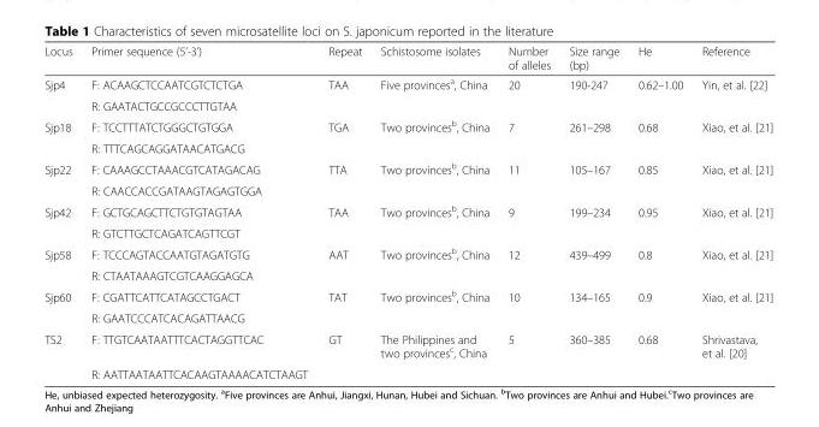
<table><thead><tr><td>Locus</td><td>Primer sequence (5’-3’)</td><td>Repeat</td><td>Schistosome isolates</td><td>Number of alleles</td><td>Size range (bp)</td><td>He</td><td>Reference</td></tr></thead><tbody><tr><td rowspan="2">Sjp4</td><td>F: ACAAGCTCCAATCGTCTCTGA</td><td>TAA</td><td>Five provinces<sup>a</sup>, China</td><td>20</td><td>190-247</td><td>0.62–1.00</td><td>Yin, et al. [22]</td></tr><tr><td>R: GAATACTGCCGCCCTTGTAA</td><td></td><td></td><td></td><td></td><td></td><td></td></tr><tr><td rowspan="2">Sjp18</td><td>F: TCCTTTATCTGGGCTGTGGA</td><td>TGA</td><td>Two provinces<sup>b</sup>, China</td><td>7</td><td>261–298</td><td>0.68</td><td>Xiao, et al. [21]</td></tr><tr><td>R: TTTCAGCAGGATAACATGACG</td><td></td><td></td><td></td><td></td><td></td><td></td></tr><tr><td rowspan="2">Sjp22</td><td>F: CAAAGCCTAAACGTCATAGACAG</td><td>TTA</td><td>Two provinces<sup>b</sup>, China</td><td>11</td><td>105–167</td><td>0.85</td><td>Xiao, et al. [21]</td></tr><tr><td>R: CAACCACCGATAAGTAGAGTGGA</td><td></td><td></td><td></td><td></td><td></td><td></td></tr><tr><td rowspan="2">Sjp42</td><td>F: GCTGCAGCTTCTGTGTAGTAA</td><td>TAA</td><td>Two provinces<sup>b</sup>, China</td><td>9</td><td>199–234</td><td>0.95</td><td>Xiao, et al. [21]</td></tr><tr><td>R: GTCTTGCTCAGATCAGTTCGT</td><td></td><td></td><td></td><td></td><td></td><td></td></tr><tr><td rowspan="2">Sjp58</td><td>F: TCCCAGTACCAATGTAGATGTG</td><td>AAT</td><td>Two provinces<sup>b</sup>, China</td><td>12</td><td>439–499</td><td>0.8</td><td>Xiao, et al. [21]</td></tr><tr><td>R: CTAATAAAGTCGTCAAGGAGCA</td><td></td><td></td><td></td><td></td><td></td><td></td></tr><tr><td rowspan="2">Sjp60</td><td>F: CGATTCATTCATAGCCTGACT</td><td>TAT</td><td>Two provinces<sup>b</sup>, China</td><td>10</td><td>134–165</td><td>0.9</td><td>Xiao, et al. [21]</td></tr><tr><td>R: GAATCCCATCACAGATTAACG</td><td></td><td></td><td></td><td></td><td></td><td></td></tr><tr><td rowspan="2">TS2</td><td>F: TTGTCAATAATTTCACTAGGTTCAC</td><td>GT</td><td>The Philippines and two provinces<sup>c</sup>, China</td><td>5</td><td>360–385</td><td>0.68</td><td>Shrivastava, et al. [20]</td></tr><tr><td>R: AATTAATAATTCACAAGTAAAACATCTAAGT</td><td></td><td></td><td></td><td></td><td></td><td></td></tr></tbody></table>